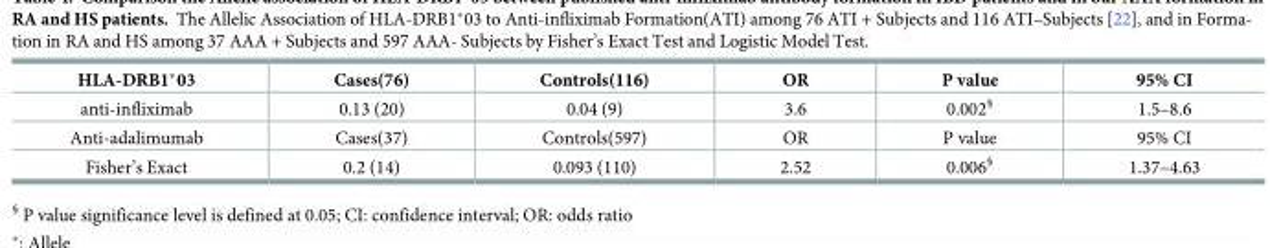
<table><thead><tr><td>HLA-DRB1*03</td><td>Cases(76)</td><td>Controls(116)</td><td>OR</td><td>P value</td><td>95% CI</td></tr></thead><tbody><tr><td>anti-infliximab</td><td>0.13 (20)</td><td>0.04 (9)</td><td>3.6</td><td>0.002<sup>§</sup></td><td>1.5–8.6</td></tr><tr><td>Anti-adalimumab</td><td>Cases(37)</td><td>Controls(597)</td><td>OR</td><td>P value</td><td>95% CI</td></tr><tr><td>Fisher’s Exact</td><td>0.2 (14)</td><td>0.093 (110)</td><td>2.52</td><td>0.006<sup>§</sup></td><td>1.37–4.63</td></tr></tbody></table>